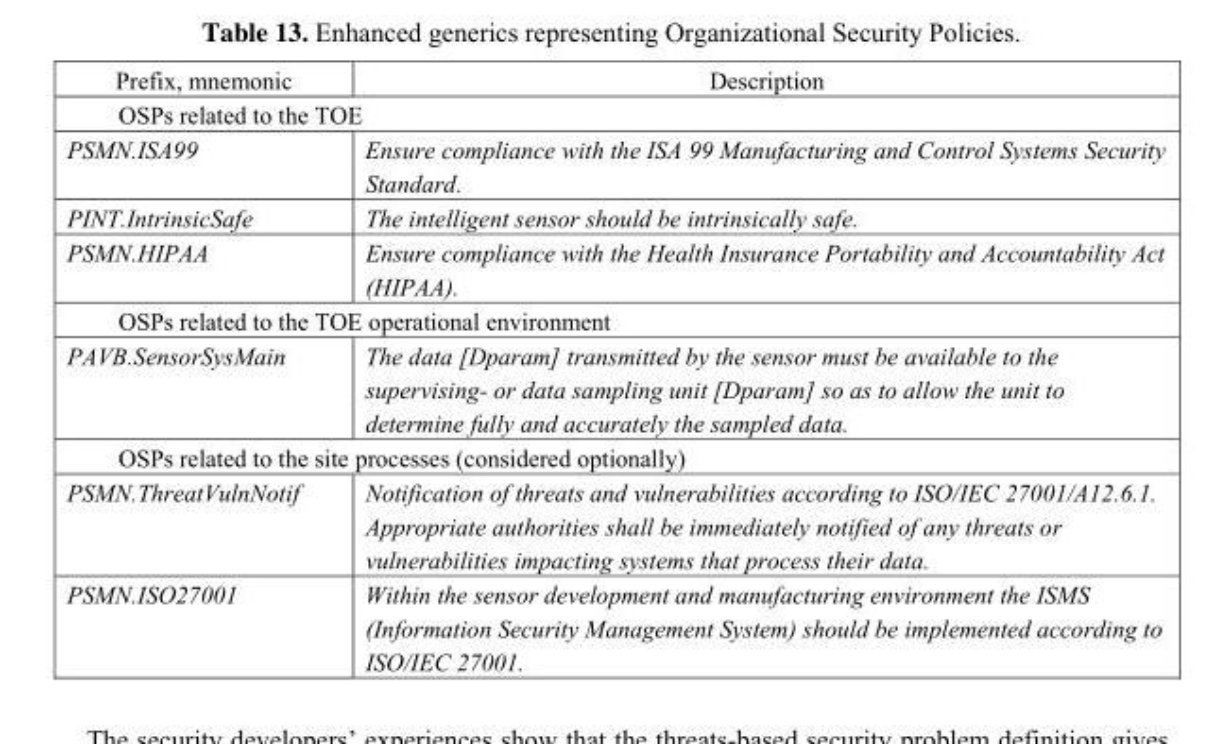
<table><thead><tr><td>Prefix, mnemonic</td><td>Description</td></tr></thead><tbody><tr><td colspan="2">OSPs related to the TOE</td></tr><tr><td>PSMN.ISA99</td><td>Ensure compliance with the ISA 99 Manufacturing and Control Systems Security Standard.</td></tr><tr><td>PINT.IntrinsicSafe</td><td>The intelligent sensor should be intrinsically safe.</td></tr><tr><td>PSMN.HIPAA</td><td>Ensure compliance with the Health Insurance Portability and Accountability Act (HIPAA).</td></tr><tr><td colspan="2">OSPs related to the TOE operational environment</td></tr><tr><td>PAVB.SensorSysMain</td><td>The data [Dparam] transmitted by the sensor must be available to the supervising- or data sampling unit [Dparam] so as to allow the unit to determine fully and accurately the sampled data.</td></tr><tr><td colspan="2">OSPs related to the site processes (considered optionally)</td></tr><tr><td>PSMN.ThreatVulnNotif</td><td>Notification of threats and vulnerabilities according to ISO/IEC 27001/A12.6.1. Appropriate authorities shall be immediately notified of any threats or vulnerabilities impacting systems that process their data.</td></tr><tr><td>PSMN.ISO27001</td><td>Within the sensor development and manufacturing environment the ISMS (Information Security Management System) should be implemented according to ISO/IEC 27001.</td></tr></tbody></table>